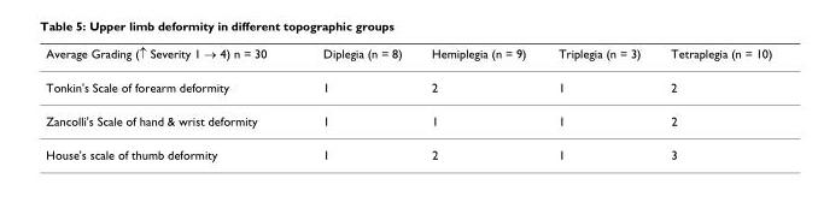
<table><thead><tr><td>Average Grading (↑ Severity 1 → 4) n = 30</td><td>Diplegia (n = 8)</td><td>Hemiplegia (n = 9)</td><td>Triplegia (n = 3)</td><td>Tetraplegia (n = 10)</td></tr></thead><tbody><tr><td>Tonkin&#x27;s Scale of forearm deformity</td><td>1</td><td>2</td><td>1</td><td>2</td></tr><tr><td>Zancolli&#x27;s Scale of hand &amp; wrist deformity</td><td>1</td><td>1</td><td>1</td><td>2</td></tr><tr><td>House&#x27;s scale of thumb deformity</td><td>1</td><td>2</td><td>1</td><td>3</td></tr></tbody></table>